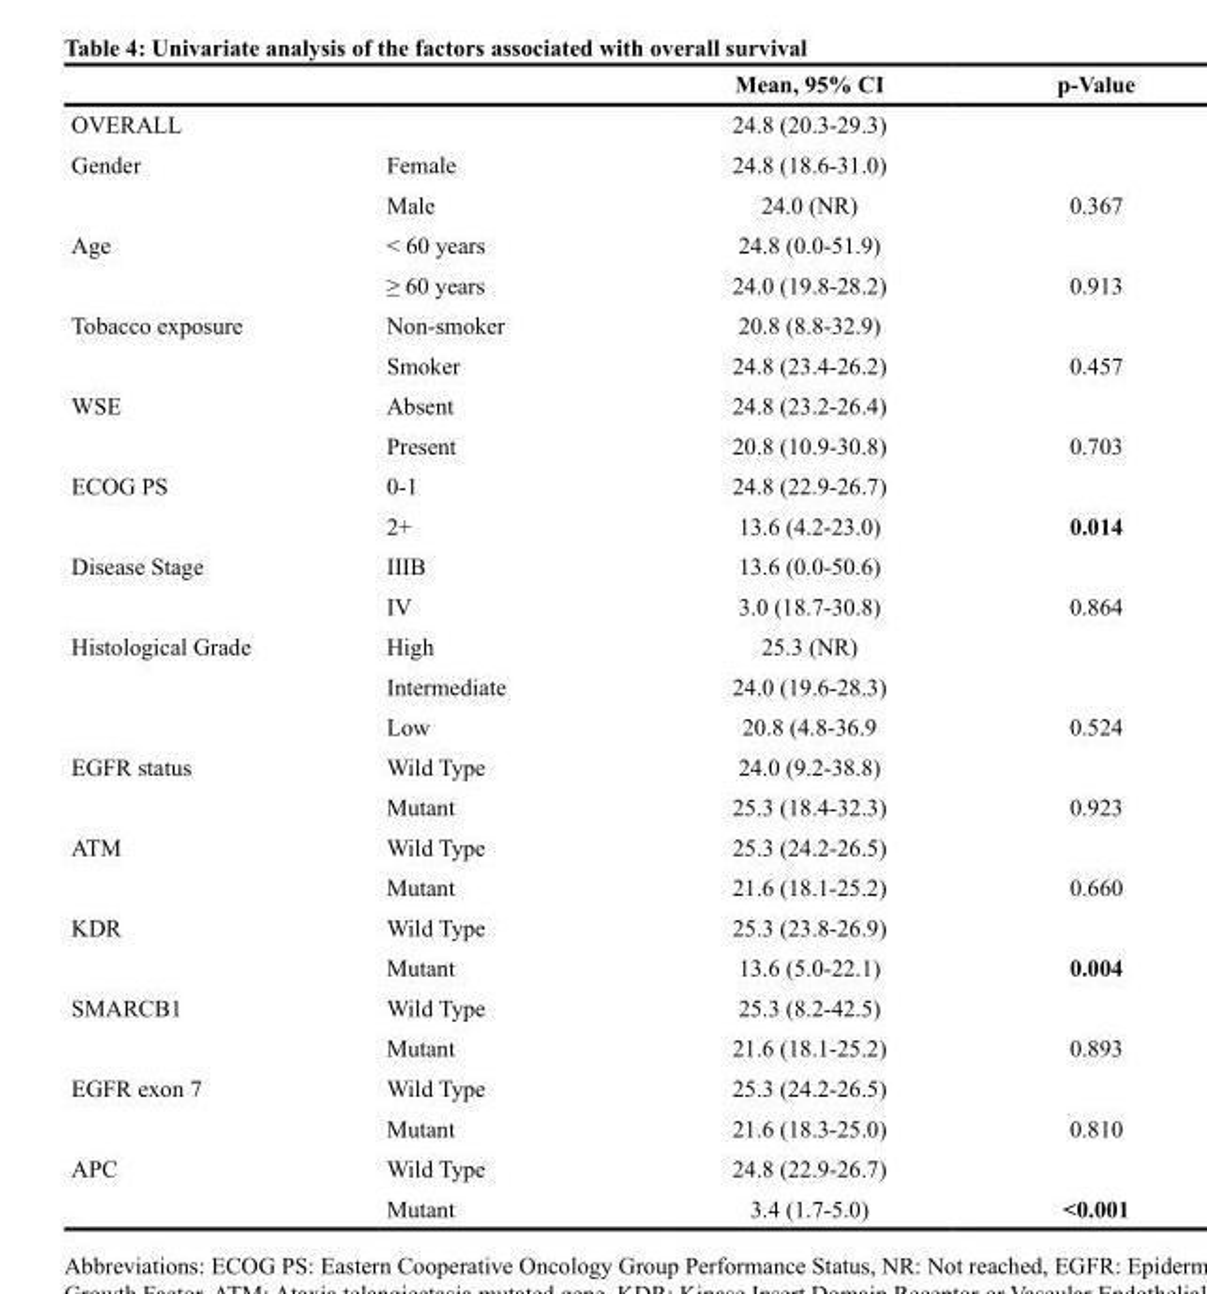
<table><thead><tr><td></td><td></td><td>Mean, 95% CI</td><td>p-Value</td></tr></thead><tbody><tr><td colspan="2">OVERALL</td><td>24.8 (20.3-29.3)</td><td></td></tr><tr><td rowspan="2">Gender</td><td>Female</td><td>24.8 (18.6-31.0)</td><td></td></tr><tr><td>Male</td><td>24.0 (NR)</td><td>0.367</td></tr><tr><td rowspan="2">Age</td><td>&lt; 60 years</td><td>24.8 (0.0-51.9)</td><td></td></tr><tr><td>≥ 60 years</td><td>24.0 (19.8-28.2)</td><td>0.913</td></tr><tr><td rowspan="2">Tobacco exposure</td><td>Non-smoker</td><td>20.8 (8.8-32.9)</td><td></td></tr><tr><td>Smoker</td><td>24.8 (23.4-26.2)</td><td>0.457</td></tr><tr><td rowspan="2">WSE</td><td>Absent</td><td>24.8 (23.2-26.4)</td><td></td></tr><tr><td>Present</td><td>20.8 (10.9-30.8)</td><td>0.703</td></tr><tr><td rowspan="2">ECOG PS</td><td>0-1</td><td>24.8 (22.9-26.7)</td><td></td></tr><tr><td>2+</td><td>13.6 (4.2-23.0)</td><td>0.014</td></tr><tr><td rowspan="2">Disease Stage</td><td>IIIB</td><td>13.6 (0.0-50.6)</td><td></td></tr><tr><td>IV</td><td>3.0 (18.7-30.8)</td><td>0.864</td></tr><tr><td rowspan="3">Histological Grade</td><td>High</td><td>25.3 (NR)</td><td></td></tr><tr><td>Intermediate</td><td>24.0 (19.6-28.3)</td><td></td></tr><tr><td>Low</td><td>20.8 (4.8-36.9</td><td>0.524</td></tr><tr><td rowspan="2">EGFR status</td><td>Wild Type</td><td>24.0 (9.2-38.8)</td><td></td></tr><tr><td>Mutant</td><td>25.3 (18.4-32.3)</td><td>0.923</td></tr><tr><td rowspan="2">ATM</td><td>Wild Type</td><td>25.3 (24.2-26.5)</td><td></td></tr><tr><td>Mutant</td><td>21.6 (18.1-25.2)</td><td>0.660</td></tr><tr><td rowspan="2">KDR</td><td>Wild Type</td><td>25.3 (23.8-26.9)</td><td></td></tr><tr><td>Mutant</td><td>13.6 (5.0-22.1)</td><td>0.004</td></tr><tr><td rowspan="2">SMARCB1</td><td>Wild Type</td><td>25.3 (8.2-42.5)</td><td></td></tr><tr><td>Mutant</td><td>21.6 (18.1-25.2)</td><td>0.893</td></tr><tr><td rowspan="2">EGFR exon 7</td><td>Wild Type</td><td>25.3 (24.2-26.5)</td><td></td></tr><tr><td>Mutant</td><td>21.6 (18.3-25.0)</td><td>0.810</td></tr><tr><td rowspan="2">APC</td><td>Wild Type</td><td>24.8 (22.9-26.7)</td><td></td></tr><tr><td>Mutant</td><td>3.4 (1.7-5.0)</td><td>&lt;0.001</td></tr></tbody></table>